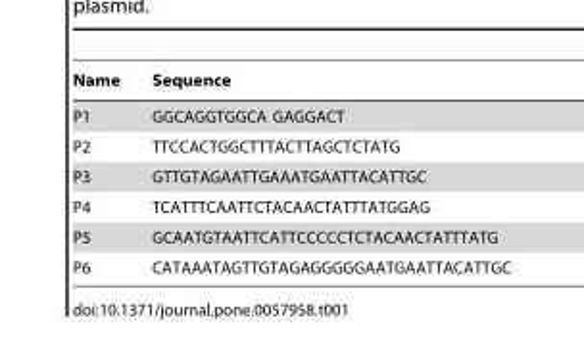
<table><thead><tr><td>Name</td><td>Sequence</td></tr></thead><tbody><tr><td>P1</td><td>GGCAGGTGGCA GAGGACT</td></tr><tr><td>P2</td><td>TTCCACTGGCTTTACTTAGCTCTATG</td></tr><tr><td>P3</td><td>GTTGTAGAATTGAAATGAATTACATTGC</td></tr><tr><td>P4</td><td>TCATTTCAATTCTACAACTATTTATGGAG</td></tr><tr><td>P5</td><td>GCAATGTAATTCATTCCCCCTCTACAACTATTTATG</td></tr><tr><td>P6</td><td>CATAAATAGTTGTAGAGGGGGAATGAATTACATTGC</td></tr></tbody></table>